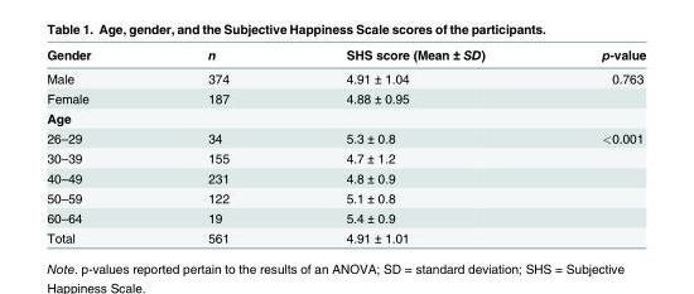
<table><thead><tr><td>Gender</td><td>n</td><td>SHS score (Mean ± SD)</td><td>p-value</td></tr></thead><tbody><tr><td>Male</td><td>374</td><td>4.91 ± 1.04</td><td>0.763</td></tr><tr><td>Female</td><td>187</td><td>4.88 ± 0.95</td><td></td></tr><tr><td colspan="4">Age</td></tr><tr><td>26–29</td><td>34</td><td>5.3 ± 0.8</td><td>&lt;0.001</td></tr><tr><td>30–39</td><td>155</td><td>4.7 ± 1.2</td><td></td></tr><tr><td>40–49</td><td>231</td><td>4.8 ± 0.9</td><td></td></tr><tr><td>50–59</td><td>122</td><td>5.1 ± 0.8</td><td></td></tr><tr><td>60–64</td><td>19</td><td>5.4 ± 0.9</td><td></td></tr><tr><td>Total</td><td>561</td><td>4.91 ± 1.01</td><td></td></tr></tbody></table>